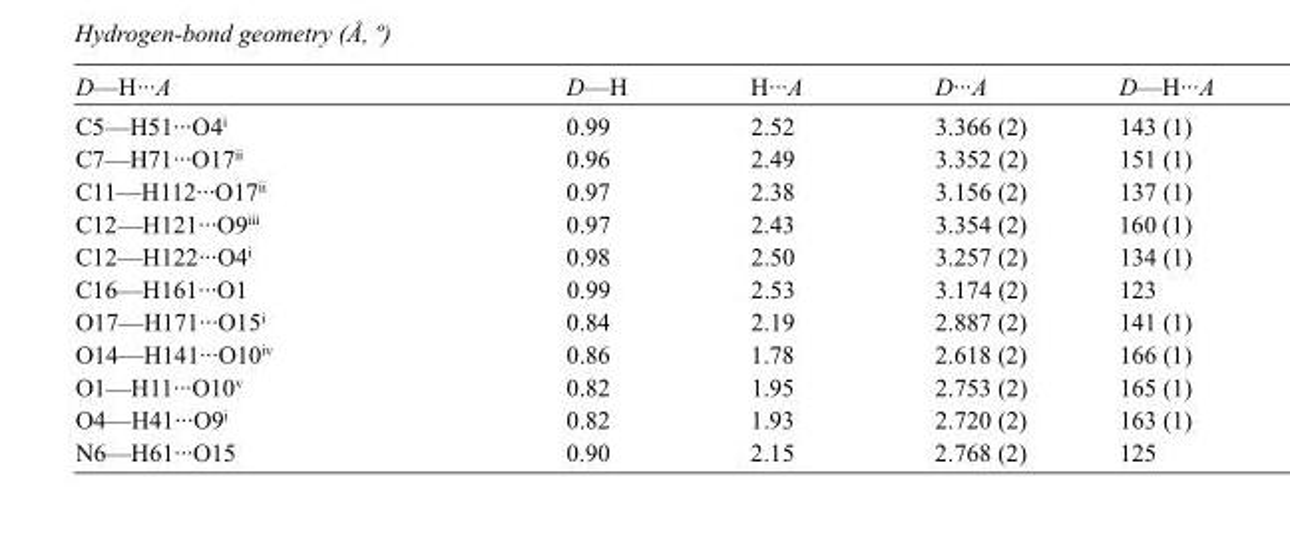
<table><tbody><tr><td>D—H···A</td><td>D—H</td><td>H···A</td><td>D···A</td><td>D—H···A</td></tr><tr><td>C5—H51···O4<sup>i</sup></td><td>0.99</td><td>2.52</td><td>3.366 (2)</td><td>143 (1)</td></tr><tr><td>C7—H71···O17<sup>ii</sup></td><td>0.96</td><td>2.49</td><td>3.352 (2)</td><td>151 (1)</td></tr><tr><td>C11—H112···O17<sup>ii</sup></td><td>0.97</td><td>2.38</td><td>3.156 (2)</td><td>137 (1)</td></tr><tr><td>C12—H121···O9<sup>iii</sup></td><td>0.97</td><td>2.43</td><td>3.354 (2)</td><td>160 (1)</td></tr><tr><td>C12—H122···O4<sup>i</sup></td><td>0.98</td><td>2.50</td><td>3.257 (2)</td><td>134 (1)</td></tr><tr><td>C16—H161···O1</td><td>0.99</td><td>2.53</td><td>3.174 (2)</td><td>123</td></tr><tr><td>O17—H171···O15<sup>i</sup></td><td>0.84</td><td>2.19</td><td>2.887 (2)</td><td>141 (1)</td></tr><tr><td>O14—H141···O10<sup>iv</sup></td><td>0.86</td><td>1.78</td><td>2.618 (2)</td><td>166 (1)</td></tr><tr><td>O1—H11···O10<sup>v</sup></td><td>0.82</td><td>1.95</td><td>2.753 (2)</td><td>165 (1)</td></tr><tr><td>O4—H41···O9<sup>i</sup></td><td>0.82</td><td>1.93</td><td>2.720 (2)</td><td>163 (1)</td></tr><tr><td>N6—H61···O15</td><td>0.90</td><td>2.15</td><td>2.768 (2)</td><td>125</td></tr></tbody></table>